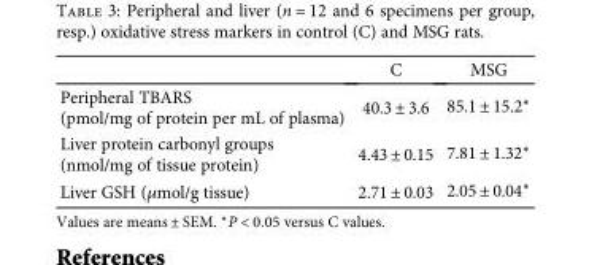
<table><thead><tr><td></td><td>C</td><td>MSG</td></tr></thead><tbody><tr><td>Peripheral TBARS (pmol/mg of protein per mL of plasma)</td><td>40.3 ± 3.6</td><td>85.1 ± 15.2∗</td></tr><tr><td>Liver protein carbonyl groups (nmol/mg of tissue protein)</td><td>4.43 ± 0.15</td><td>7.81 ± 1.32∗</td></tr><tr><td>Liver GSH (μmol/g tissue)</td><td>2.71 ± 0.03</td><td>2.05 ± 0.04∗</td></tr></tbody></table>